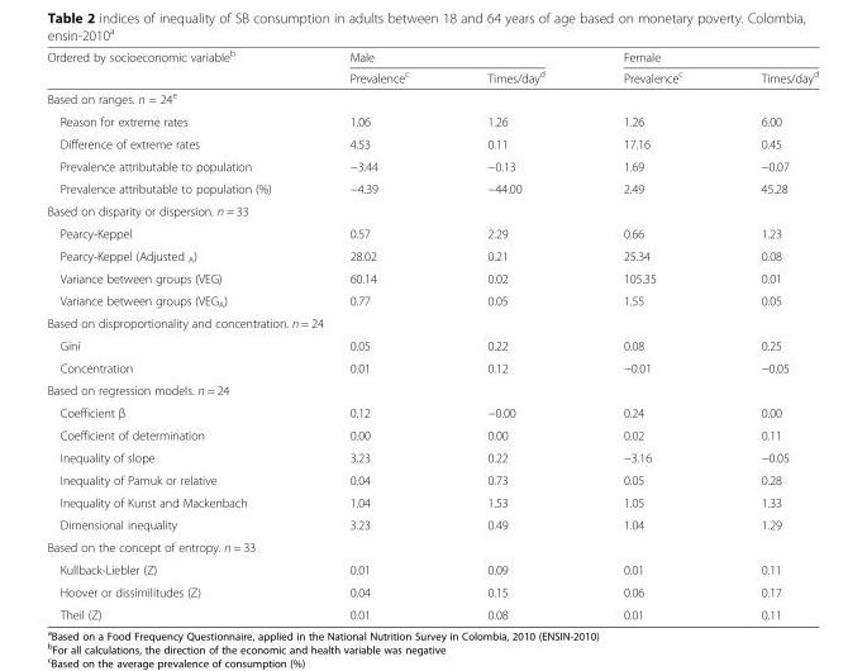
<table><thead><tr><td rowspan="2">Ordered by socioeconomic variable<sup>b</sup></td><td colspan="2">Male</td><td colspan="2">Female</td></tr><tr><td>Prevalence<sup>c</sup></td><td>Times/day<sup>d</sup></td><td>Prevalence<sup>c</sup></td><td>Times/day<sup>d</sup></td></tr></thead><tbody><tr><td colspan="5">Based on ranges. n = 24<sup>e</sup></td></tr><tr><td>Reason for extreme rates</td><td>1.06</td><td>1.26</td><td>1.26</td><td>6.00</td></tr><tr><td>Difference of extreme rates</td><td>4.53</td><td>0.11</td><td>17.16</td><td>0.45</td></tr><tr><td>Prevalence attributable to population</td><td>−3.44</td><td>−0.13</td><td>1.69</td><td>−0.07</td></tr><tr><td>Prevalence attributable to population (%)</td><td>−4.39</td><td>−44.00</td><td>2.49</td><td>45.28</td></tr><tr><td colspan="5">Based on disparity or dispersion. n = 33</td></tr><tr><td>Pearcy-Keppel</td><td>0.57</td><td>2.29</td><td>0.66</td><td>1.23</td></tr><tr><td>Pearcy-Keppel (Adjusted <sub>A</sub>)</td><td>28.02</td><td>0.21</td><td>25.34</td><td>0.08</td></tr><tr><td>Variance between groups (VEG)</td><td>60.14</td><td>0.02</td><td>105.35</td><td>0.01</td></tr><tr><td>Variance between groups (VEG<sub>A</sub>)</td><td>0.77</td><td>0.05</td><td>1.55</td><td>0.05</td></tr><tr><td colspan="5">Based on disproportionality and concentration. n = 24</td></tr><tr><td>Gini</td><td>0.05</td><td>0.22</td><td>0.08</td><td>0.25</td></tr><tr><td>Concentration</td><td>0.01</td><td>0.12</td><td>−0.01</td><td>−0.05</td></tr><tr><td colspan="5">Based on regression models. n = 24</td></tr><tr><td>Coefficient β</td><td>0.12</td><td>−0.00</td><td>0.24</td><td>0.00</td></tr><tr><td>Coefficient of determination</td><td>0.00</td><td>0.00</td><td>0.02</td><td>0.11</td></tr><tr><td>Inequality of slope</td><td>3.23</td><td>0.22</td><td>−3.16</td><td>−0.05</td></tr><tr><td>Inequality of Pamuk or relative</td><td>0.04</td><td>0.73</td><td>0.05</td><td>0.28</td></tr><tr><td>Inequality of Kunst and Mackenbach</td><td>1.04</td><td>1.53</td><td>1.05</td><td>1.33</td></tr><tr><td>Dimensional inequality</td><td>3.23</td><td>0.49</td><td>1.04</td><td>1.29</td></tr><tr><td colspan="5">Based on the concept of entropy. n = 33</td></tr><tr><td>Kullback-Liebler (Z)</td><td>0.01</td><td>0.09</td><td>0.01</td><td>0.11</td></tr><tr><td>Hoover or dissimilitudes (Z)</td><td>0.04</td><td>0.15</td><td>0.06</td><td>0.17</td></tr><tr><td>Theil (Z)</td><td>0.01</td><td>0.08</td><td>0.01</td><td>0.11</td></tr></tbody></table>